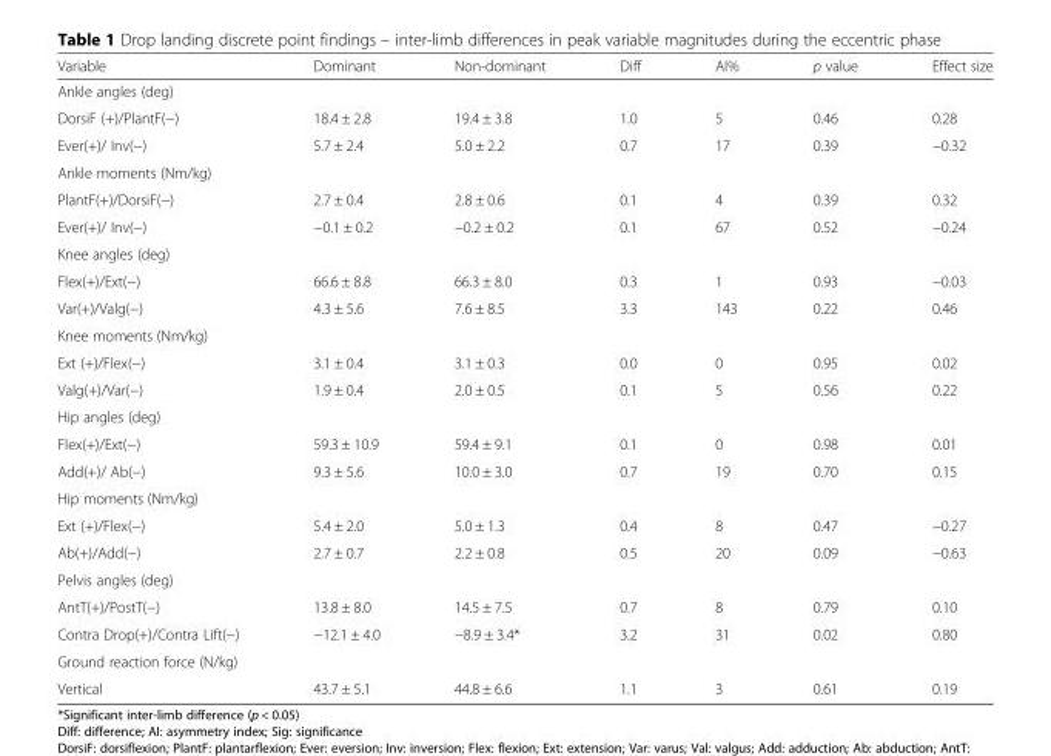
<table><thead><tr><td>Variable</td><td>Dominant</td><td>Non-dominant</td><td>Diff</td><td>AI%</td><td>p value</td><td>Effect size</td></tr></thead><tbody><tr><td colspan="7">Ankle angles (deg)</td></tr><tr><td>DorsiF (+)/PlantF(−)</td><td>18.4 ± 2.8</td><td>19.4 ± 3.8</td><td>1.0</td><td>5</td><td>0.46</td><td>0.28</td></tr><tr><td>Ever(+)/ Inv(−)</td><td>5.7 ± 2.4</td><td>5.0 ± 2.2</td><td>0.7</td><td>17</td><td>0.39</td><td>−0.32</td></tr><tr><td colspan="7">Ankle moments (Nm/kg)</td></tr><tr><td>PlantF(+)/DorsiF(−)</td><td>2.7 ± 0.4</td><td>2.8 ± 0.6</td><td>0.1</td><td>4</td><td>0.39</td><td>0.32</td></tr><tr><td>Ever(+)/ Inv(−)</td><td>−0.1 ± 0.2</td><td>−0.2 ± 0.2</td><td>0.1</td><td>67</td><td>0.52</td><td>−0.24</td></tr><tr><td colspan="7">Knee angles (deg)</td></tr><tr><td>Flex(+)/Ext(−)</td><td>66.6 ± 8.8</td><td>66.3 ± 8.0</td><td>0.3</td><td>1</td><td>0.93</td><td>−0.03</td></tr><tr><td>Var(+)/Valg(−)</td><td>4.3 ± 5.6</td><td>7.6 ± 8.5</td><td>3.3</td><td>143</td><td>0.22</td><td>0.46</td></tr><tr><td colspan="7">Knee moments (Nm/kg)</td></tr><tr><td>Ext (+)/Flex(−)</td><td>3.1 ± 0.4</td><td>3.1 ± 0.3</td><td>0.0</td><td>0</td><td>0.95</td><td>0.02</td></tr><tr><td>Valg(+)/Var(−)</td><td>1.9 ± 0.4</td><td>2.0 ± 0.5</td><td>0.1</td><td>5</td><td>0.56</td><td>0.22</td></tr><tr><td colspan="7">Hip angles (deg)</td></tr><tr><td>Flex(+)/Ext(−)</td><td>59.3 ± 10.9</td><td>59.4 ± 9.1</td><td>0.1</td><td>0</td><td>0.98</td><td>0.01</td></tr><tr><td>Add(+)/ Ab(−)</td><td>9.3 ± 5.6</td><td>10.0 ± 3.0</td><td>0.7</td><td>19</td><td>0.70</td><td>0.15</td></tr><tr><td colspan="7">Hip moments (Nm/kg)</td></tr><tr><td>Ext (+)/Flex(−)</td><td>5.4 ± 2.0</td><td>5.0 ± 1.3</td><td>0.4</td><td>8</td><td>0.47</td><td>−0.27</td></tr><tr><td>Ab(+)/Add(−)</td><td>2.7 ± 0.7</td><td>2.2 ± 0.8</td><td>0.5</td><td>20</td><td>0.09</td><td>−0.63</td></tr><tr><td colspan="7">Pelvis angles (deg)</td></tr><tr><td>AntT(+)/PostT(−)</td><td>13.8 ± 8.0</td><td>14.5 ± 7.5</td><td>0.7</td><td>8</td><td>0.79</td><td>0.10</td></tr><tr><td>Contra Drop(+)/Contra Lift(−)</td><td>−12.1 ± 4.0</td><td>−8.9 ± 3.4*</td><td>3.2</td><td>31</td><td>0.02</td><td>0.80</td></tr><tr><td colspan="7">Ground reaction force (N/kg)</td></tr><tr><td>Vertical</td><td>43.7 ± 5.1</td><td>44.8 ± 6.6</td><td>1.1</td><td>3</td><td>0.61</td><td>0.19</td></tr></tbody></table>